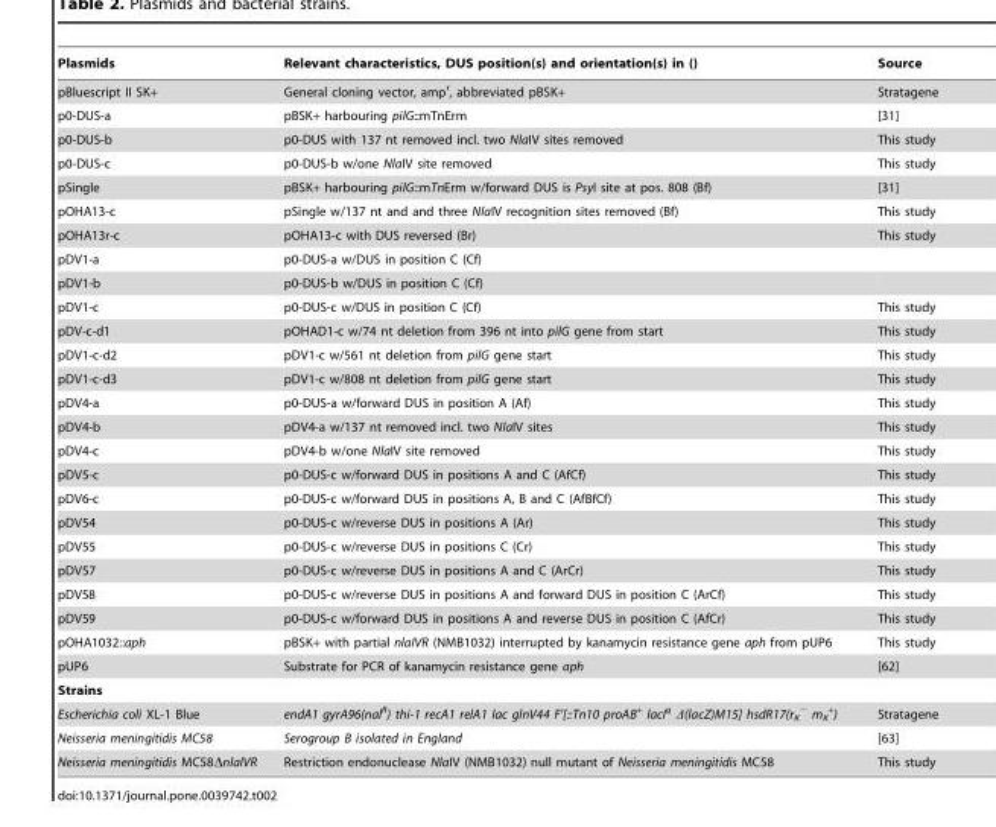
<table><thead><tr><td>Plasmids</td><td>Relevant characteristics, DUS position(s) and orientation(s) in ()</td><td>Source</td></tr></thead><tbody><tr><td>pBluescript II SK+</td><td>General cloning vector, amp<sup>r</sup>, abbreviated pBSK+</td><td>Stratagene</td></tr><tr><td>p0-DUS-a</td><td>pBSK+ harbouring pilG::mTnErm</td><td>[31]</td></tr><tr><td>p0-DUS-b</td><td>p0-DUS with 137 nt removed incl. two NlaIV sites removed</td><td>This study</td></tr><tr><td>p0-DUS-c</td><td>p0-DUS-b w/one NlaIV site removed</td><td>This study</td></tr><tr><td>pSingle</td><td>pBSK+ harbouring pilG::mTnErm w/forward DUS is PsyI site at pos. 808 (Bf)</td><td>[31]</td></tr><tr><td>pOHA13-c</td><td>pSingle w/137 nt and and three NlaIV recognition sites removed (Bf)</td><td>This study</td></tr><tr><td>pOHA13r-c</td><td>pOHA13-c with DUS reversed (Br)</td><td>This study</td></tr><tr><td>pDV1-a</td><td>p0-DUS-a w/DUS in position C (Cf)</td><td></td></tr><tr><td>pDV1-b</td><td>p0-DUS-b w/DUS in position C (Cf)</td><td></td></tr><tr><td>pDV1-c</td><td>p0-DUS-c w/DUS in position C (Cf)</td><td>This study</td></tr><tr><td>pDV-c-d1</td><td>pOHAD1-c w/74 nt deletion from 396 nt into pilG gene from start</td><td>This study</td></tr><tr><td>pDV1-c-d2</td><td>pDV1-c w/561 nt deletion from pilG gene start</td><td>This study</td></tr><tr><td>pDV1-c-d3</td><td>pDV1-c w/808 nt deletion from pilG gene start</td><td>This study</td></tr><tr><td>pDV4-a</td><td>p0-DUS-a w/forward DUS in position A (Af)</td><td>This study</td></tr><tr><td>pDV4-b</td><td>pDV4-a w/137 nt removed incl. two NlaIV sites</td><td>This study</td></tr><tr><td>pDV4-c</td><td>pDV4-b w/one NlaIV site removed</td><td>This study</td></tr><tr><td>pDV5-c</td><td>p0-DUS-c w/forward DUS in positions A and C (AfCf)</td><td>This study</td></tr><tr><td>pDV6-c</td><td>p0-DUS-c w/forward DUS in positions A, B and C (AfBfCf)</td><td>This study</td></tr><tr><td>pDV54</td><td>p0-DUS-c w/reverse DUS in positions A (Ar)</td><td>This study</td></tr><tr><td>pDV55</td><td>p0-DUS-c w/reverse DUS in positions C (Cr)</td><td>This study</td></tr><tr><td>pDV57</td><td>p0-DUS-c w/reverse DUS in positions A and C (ArCr)</td><td>This study</td></tr><tr><td>pDV58</td><td>p0-DUS-c w/reverse DUS in positions A and forward DUS in position C (ArCf)</td><td>This study</td></tr><tr><td>pDV59</td><td>p0-DUS-c w/forward DUS in positions A and reverse DUS in position C (AfCr)</td><td>This study</td></tr><tr><td>pOHA1032::aph</td><td>pBSK+ with partial nlaIVR (NMB1032) interrupted by kanamycin resistance gene aph from pUP6</td><td>This study</td></tr><tr><td>pUP6</td><td>Substrate for PCR of kanamycin resistance gene aph</td><td>[62]</td></tr><tr><td colspan="3">Strains</td></tr><tr><td>Escherichia coli XL-1 Blue</td><td>endA1 gyrA96(nal<sup>R</sup>) thi-1 recA1 relA1 lac glnV44 F’[::Tn10 proAB<sup>+</sup> lacI<sup>q</sup> Δ(lacZ)M15] hsdR17(r<sub>K</sub> <sup>−</sup> m<sub>K</sub> <sup>+</sup>)</td><td>Stratagene</td></tr><tr><td>Neisseria meningitidis MC58</td><td>Serogroup B isolated in England</td><td>[63]</td></tr><tr><td>Neisseria meningitidis MC58ΔnlaIVR</td><td>Restriction endonuclease NlaIV (NMB1032) null mutant of Neisseria meningitidis MC58</td><td>This study</td></tr></tbody></table>